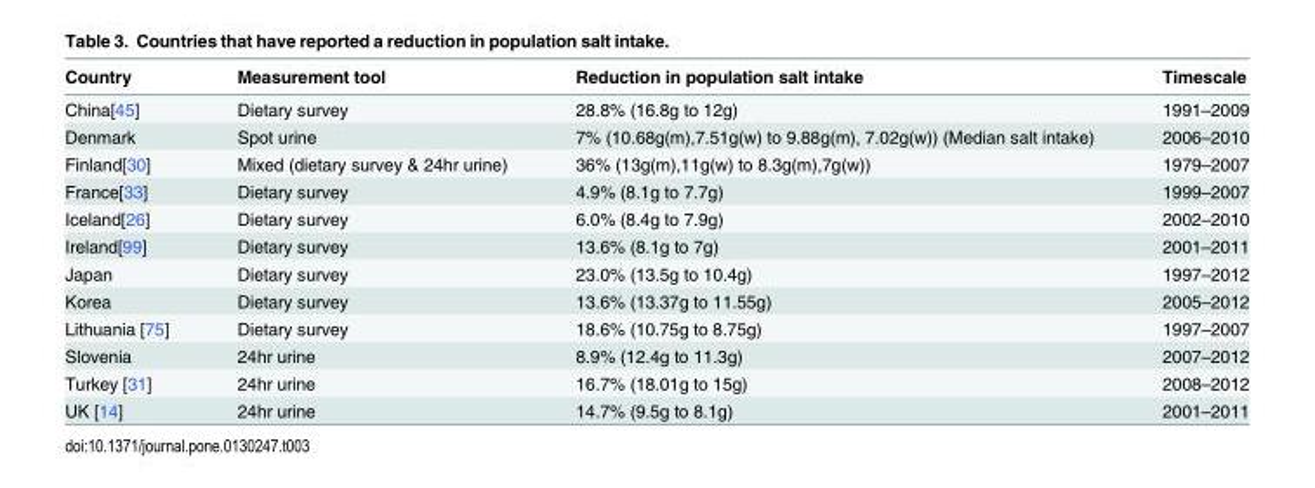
<table><thead><tr><td>Country</td><td>Measurement tool</td><td>Reduction in population salt intake</td><td>Timescale</td></tr></thead><tbody><tr><td>China[45]</td><td>Dietary survey</td><td>28.8% (16.8g to 12g)</td><td>1991–2009</td></tr><tr><td>Denmark</td><td>Spot urine</td><td>7% (10.68g(m),7.51g(w) to 9.88g(m), 7.02g(w)) (Median salt intake)</td><td>2006–2010</td></tr><tr><td>Finland[30]</td><td>Mixed (dietary survey &amp; 24hr urine)</td><td>36% (13g(m),11g(w) to 8.3g(m),7g(w))</td><td>1979–2007</td></tr><tr><td>France[33]</td><td>Dietary survey</td><td>4.9% (8.1g to 7.7g)</td><td>1999–2007</td></tr><tr><td>Iceland[26]</td><td>Dietary survey</td><td>6.0% (8.4g to 7.9g)</td><td>2002–2010</td></tr><tr><td>Ireland[99]</td><td>Dietary survey</td><td>13.6% (8.1g to 7g)</td><td>2001–2011</td></tr><tr><td>Japan</td><td>Dietary survey</td><td>23.0% (13.5g to 10.4g)</td><td>1997–2012</td></tr><tr><td>Korea</td><td>Dietary survey</td><td>13.6% (13.37g to 11.55g)</td><td>2005–2012</td></tr><tr><td>Lithuania [75]</td><td>Dietary survey</td><td>18.6% (10.75g to 8.75g)</td><td>1997–2007</td></tr><tr><td>Slovenia</td><td>24hr urine</td><td>8.9% (12.4g to 11.3g)</td><td>2007–2012</td></tr><tr><td>Turkey [31]</td><td>24hr urine</td><td>16.7% (18.01g to 15g)</td><td>2008–2012</td></tr><tr><td>UK [14]</td><td>24hr urine</td><td>14.7% (9.5g to 8.1g)</td><td>2001–2011</td></tr></tbody></table>